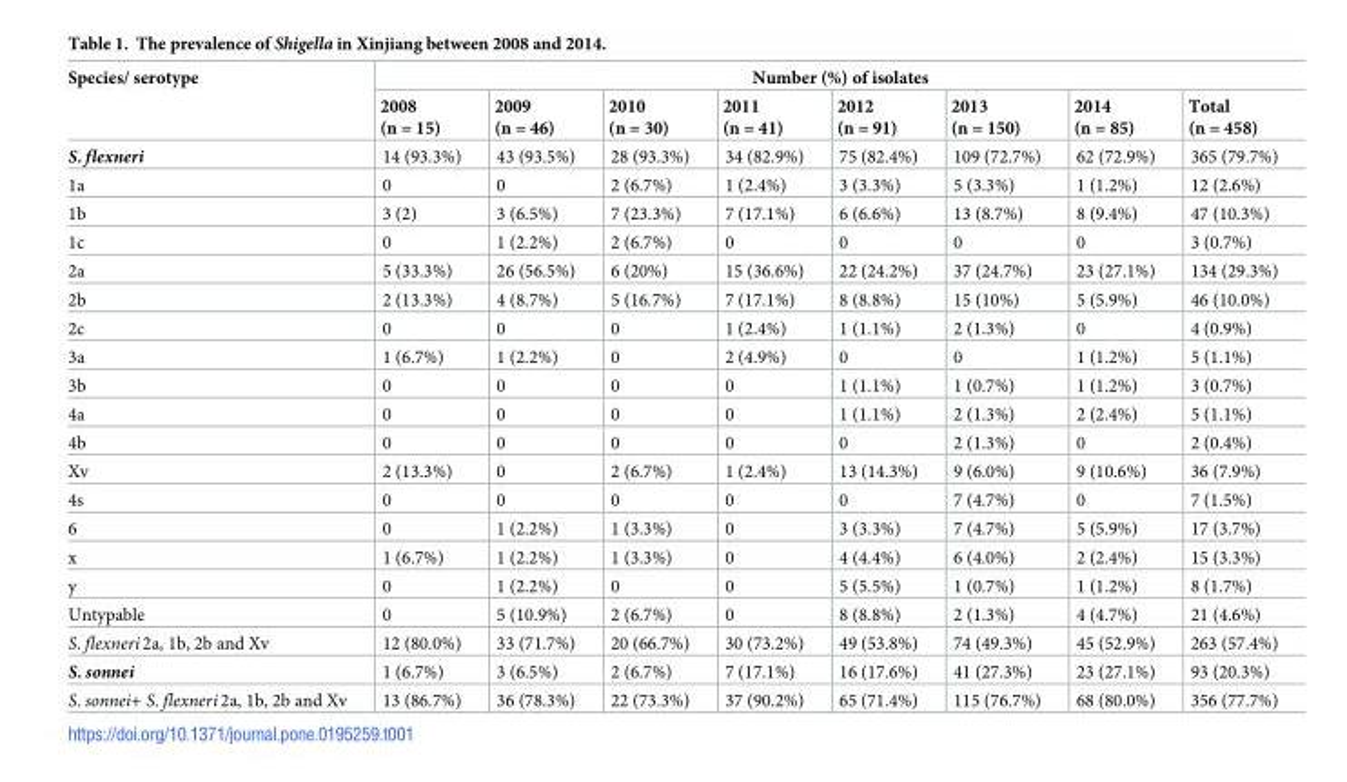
<table><thead><tr><td rowspan="2">Species/ serotype</td><td colspan="8">Number (%) of isolates</td></tr><tr><td>2008 (n = 15)</td><td>2009 (n = 46)</td><td>2010 (n = 30)</td><td>2011 (n = 41)</td><td>2012 (n = 91)</td><td>2013 (n = 150)</td><td>2014 (n = 85)</td><td>Total (n = 458)</td></tr></thead><tbody><tr><td>S. flexneri</td><td>14 (93.3%)</td><td>43 (93.5%)</td><td>28 (93.3%)</td><td>34 (82.9%)</td><td>75 (82.4%)</td><td>109 (72.7%)</td><td>62 (72.9%)</td><td>365 (79.7%)</td></tr><tr><td>1a</td><td>0</td><td>0</td><td>2 (6.7%)</td><td>1 (2.4%)</td><td>3 (3.3%)</td><td>5 (3.3%)</td><td>1 (1.2%)</td><td>12 (2.6%)</td></tr><tr><td>1b</td><td>3 (2)</td><td>3 (6.5%)</td><td>7 (23.3%)</td><td>7 (17.1%)</td><td>6 (6.6%)</td><td>13 (8.7%)</td><td>8 (9.4%)</td><td>47 (10.3%)</td></tr><tr><td>1c</td><td>0</td><td>1 (2.2%)</td><td>2 (6.7%)</td><td>0</td><td>0</td><td>0</td><td>0</td><td>3 (0.7%)</td></tr><tr><td>2a</td><td>5 (33.3%)</td><td>26 (56.5%)</td><td>6 (20%)</td><td>15 (36.6%)</td><td>22 (24.2%)</td><td>37 (24.7%)</td><td>23 (27.1%)</td><td>134 (29.3%)</td></tr><tr><td>2b</td><td>2 (13.3%)</td><td>4 (8.7%)</td><td>5 (16.7%)</td><td>7 (17.1%)</td><td>8 (8.8%)</td><td>15 (10%)</td><td>5 (5.9%)</td><td>46 (10.0%)</td></tr><tr><td>2c</td><td>0</td><td>0</td><td>0</td><td>1 (2.4%)</td><td>1 (1.1%)</td><td>2 (1.3%)</td><td>0</td><td>4 (0.9%)</td></tr><tr><td>3a</td><td>1 (6.7%)</td><td>1 (2.2%)</td><td>0</td><td>2 (4.9%)</td><td>0</td><td>0</td><td>1 (1.2%)</td><td>5 (1.1%)</td></tr><tr><td>3b</td><td>0</td><td>0</td><td>0</td><td>0</td><td>1 (1.1%)</td><td>1 (0.7%)</td><td>1 (1.2%)</td><td>3 (0.7%)</td></tr><tr><td>4a</td><td>0</td><td>0</td><td>0</td><td>0</td><td>1 (1.1%)</td><td>2 (1.3%)</td><td>2 (2.4%)</td><td>5 (1.1%)</td></tr><tr><td>4b</td><td>0</td><td>0</td><td>0</td><td>0</td><td>0</td><td>2 (1.3%)</td><td>0</td><td>2 (0.4%)</td></tr><tr><td>Xv</td><td>2 (13.3%)</td><td>0</td><td>2 (6.7%)</td><td>1 (2.4%)</td><td>13 (14.3%)</td><td>9 (6.0%)</td><td>9 (10.6%)</td><td>36 (7.9%)</td></tr><tr><td>4s</td><td>0</td><td>0</td><td>0</td><td>0</td><td>0</td><td>7 (4.7%)</td><td>0</td><td>7 (1.5%)</td></tr><tr><td>6</td><td>0</td><td>1 (2.2%)</td><td>1 (3.3%)</td><td>0</td><td>3 (3.3%)</td><td>7 (4.7%)</td><td>5 (5.9%)</td><td>17 (3.7%)</td></tr><tr><td>x</td><td>1 (6.7%)</td><td>1 (2.2%)</td><td>1 (3.3%)</td><td>0</td><td>4 (4.4%)</td><td>6 (4.0%)</td><td>2 (2.4%)</td><td>15 (3.3%)</td></tr><tr><td>y</td><td>0</td><td>1 (2.2%)</td><td>0</td><td>0</td><td>5 (5.5%)</td><td>1 (0.7%)</td><td>1 (1.2%)</td><td>8 (1.7%)</td></tr><tr><td>Untypable</td><td>0</td><td>5 (10.9%)</td><td>2 (6.7%)</td><td>0</td><td>8 (8.8%)</td><td>2 (1.3%)</td><td>4 (4.7%)</td><td>21 (4.6%)</td></tr><tr><td>S. flexneri 2a, 1b, 2b and Xv</td><td>12 (80.0%)</td><td>33 (71.7%)</td><td>20 (66.7%)</td><td>30 (73.2%)</td><td>49 (53.8%)</td><td>74 (49.3%)</td><td>45 (52.9%)</td><td>263 (57.4%)</td></tr><tr><td>S. sonnei</td><td>1 (6.7%)</td><td>3 (6.5%)</td><td>2 (6.7%)</td><td>7 (17.1%)</td><td>16 (17.6%)</td><td>41 (27.3%)</td><td>23 (27.1%)</td><td>93 (20.3%)</td></tr><tr><td>S. sonnei+ S. flexneri 2a, 1b, 2b and Xv</td><td>13 (86.7%)</td><td>36 (78.3%)</td><td>22 (73.3%)</td><td>37 (90.2%)</td><td>65 (71.4%)</td><td>115 (76.7%)</td><td>68 (80.0%)</td><td>356 (77.7%)</td></tr></tbody></table>